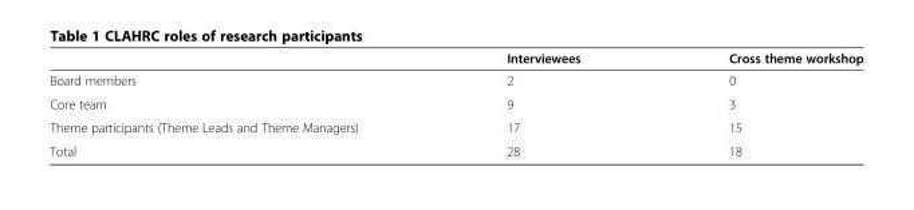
<table><thead><tr><td></td><td>Interviewees</td><td>Cross theme workshop</td></tr></thead><tbody><tr><td>Board members</td><td>2</td><td>0</td></tr><tr><td>Core team</td><td>9</td><td>3</td></tr><tr><td>Theme participants (Theme Leads and Theme Managers)</td><td>17</td><td>15</td></tr><tr><td>Total</td><td>28</td><td>18</td></tr></tbody></table>